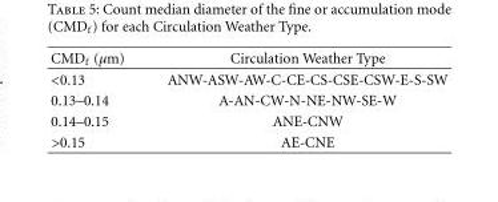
<table><thead><tr><td>CMD<sub>f</sub> (μm)</td><td>Circulation Weather Type</td></tr></thead><tbody><tr><td>&lt;0.13</td><td>ANW-ASW-AW-C-CE-CS-CSE-CSW-E-S-SW</td></tr><tr><td>0.13–0.14</td><td>A-AN-CW-N-NE-NW-SE-W</td></tr><tr><td>0.14–0.15</td><td>ANE-CNW</td></tr><tr><td>&gt;0.15</td><td>AE-CNE</td></tr></tbody></table>